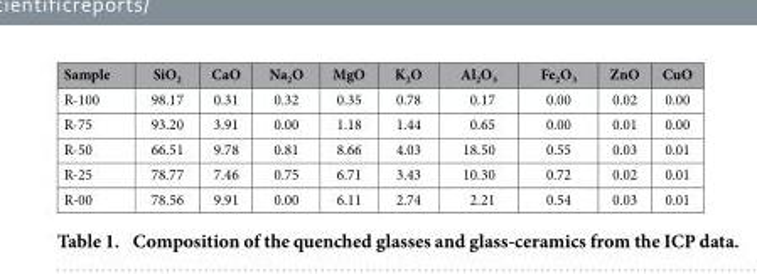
<table><thead><tr><td>Sample</td><td>SiO<sub>2</sub></td><td>CaO</td><td>Na<sub>2</sub>O</td><td>MgO</td><td>K<sub>2</sub>O</td><td>Al<sub>2</sub>O<sub>3</sub></td><td>Fe<sub>2</sub>O<sub>3</sub></td><td>ZnO</td><td>CuO</td></tr></thead><tbody><tr><td>R-100</td><td>98.17</td><td>0.31</td><td>0.32</td><td>0.35</td><td>0.78</td><td>0.17</td><td>0.00</td><td>0.02</td><td>0.00</td></tr><tr><td>R-75</td><td>93.20</td><td>3.91</td><td>0.00</td><td>1.18</td><td>1.44</td><td>0.65</td><td>0.00</td><td>0.01</td><td>0.00</td></tr><tr><td>R-50</td><td>66.51</td><td>9.78</td><td>0.81</td><td>8.66</td><td>4.03</td><td>18.50</td><td>0.55</td><td>0.03</td><td>0.01</td></tr><tr><td>R-25</td><td>78.77</td><td>7.46</td><td>0.75</td><td>6.71</td><td>3.43</td><td>10.30</td><td>0.72</td><td>0.02</td><td>0.01</td></tr><tr><td>R-00</td><td>78.56</td><td>9.91</td><td>0.00</td><td>6.11</td><td>2.74</td><td>2.21</td><td>0.54</td><td>0.03</td><td>0.01</td></tr></tbody></table>